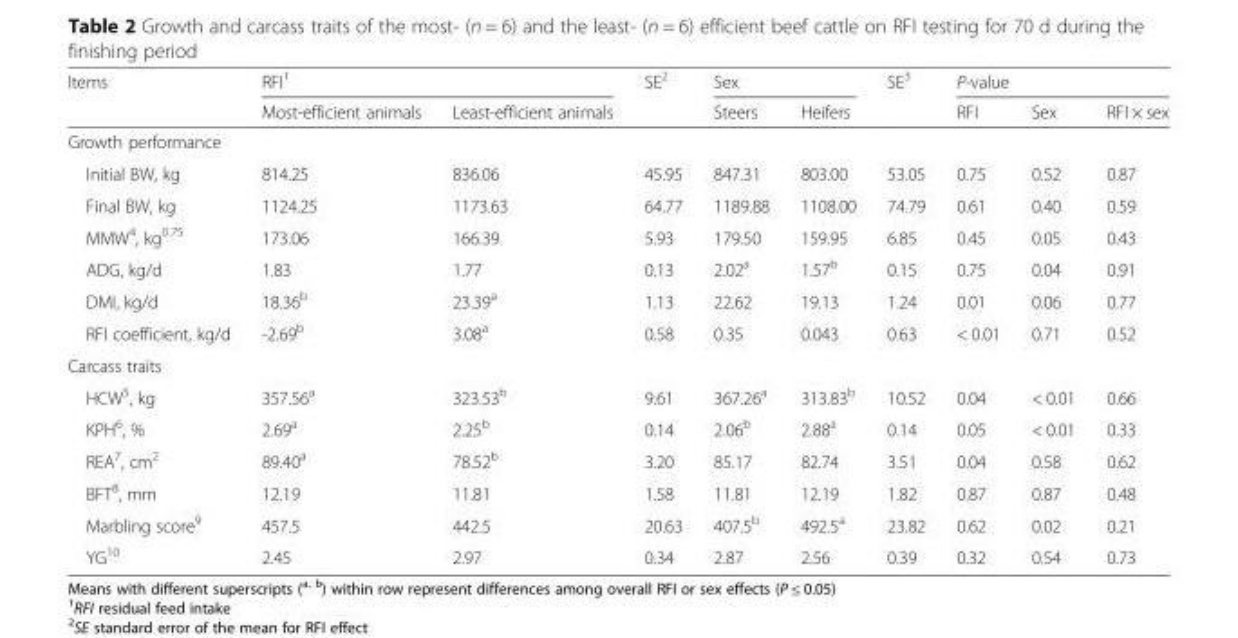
<table><thead><tr><td rowspan="2">Items</td><td colspan="2">RFI<sup>1</sup></td><td rowspan="2">SE<sup>2</sup></td><td colspan="2">Sex</td><td rowspan="2">SE<sup>3</sup></td><td colspan="3">P-value</td></tr><tr><td>Most-efficient animals</td><td>Least-efficient animals</td><td>Steers</td><td>Heifers</td><td>RFI</td><td>Sex</td><td>RFI × sex</td></tr></thead><tbody><tr><td colspan="10">Growth performance</td></tr><tr><td>Initial BW, kg</td><td>814.25</td><td>836.06</td><td>45.95</td><td>847.31</td><td>803.00</td><td>53.05</td><td>0.75</td><td>0.52</td><td>0.87</td></tr><tr><td>Final BW, kg</td><td>1124.25</td><td>1173.63</td><td>64.77</td><td>1189.88</td><td>1108.00</td><td>74.79</td><td>0.61</td><td>0.40</td><td>0.59</td></tr><tr><td>MMW<sup>4</sup>, kg<sup>0.75</sup></td><td>173.06</td><td>166.39</td><td>5.93</td><td>179.50</td><td>159.95</td><td>6.85</td><td>0.45</td><td>0.05</td><td>0.43</td></tr><tr><td>ADG, kg/d</td><td>1.83</td><td>1.77</td><td>0.13</td><td>2.02<sup>a</sup></td><td>1.57<sup>b</sup></td><td>0.15</td><td>0.75</td><td>0.04</td><td>0.91</td></tr><tr><td>DMI, kg/d</td><td>18.36<sup>b</sup></td><td>23.39<sup>a</sup></td><td>1.13</td><td>22.62</td><td>19.13</td><td>1.24</td><td>0.01</td><td>0.06</td><td>0.77</td></tr><tr><td>RFI coefficient, kg/d</td><td>-2.69<sup>b</sup></td><td>3.08<sup>a</sup></td><td>0.58</td><td>0.35</td><td>0.043</td><td>0.63</td><td>&lt; 0.01</td><td>0.71</td><td>0.52</td></tr><tr><td colspan="10">Carcass traits</td></tr><tr><td>HCW<sup>5</sup>, kg</td><td>357.56<sup>a</sup></td><td>323.53<sup>b</sup></td><td>9.61</td><td>367.26<sup>a</sup></td><td>313.83<sup>b</sup></td><td>10.52</td><td>0.04</td><td>&lt; 0.01</td><td>0.66</td></tr><tr><td>KPH<sup>6</sup>, %</td><td>2.69<sup>a</sup></td><td>2.25<sup>b</sup></td><td>0.14</td><td>2.06<sup>b</sup></td><td>2.88<sup>a</sup></td><td>0.14</td><td>0.05</td><td>&lt; 0.01</td><td>0.33</td></tr><tr><td>REA<sup>7</sup>, cm<sup>2</sup></td><td>89.40<sup>a</sup></td><td>78.52<sup>b</sup></td><td>3.20</td><td>85.17</td><td>82.74</td><td>3.51</td><td>0.04</td><td>0.58</td><td>0.62</td></tr><tr><td>BFT<sup>8</sup>, mm</td><td>12.19</td><td>11.81</td><td>1.58</td><td>11.81</td><td>12.19</td><td>1.82</td><td>0.87</td><td>0.87</td><td>0.48</td></tr><tr><td>Marbling score<sup>9</sup></td><td>457.5</td><td>442.5</td><td>20.63</td><td>407.5<sup>b</sup></td><td>492.5<sup>a</sup></td><td>23.82</td><td>0.62</td><td>0.02</td><td>0.21</td></tr><tr><td>YG<sup>10</sup></td><td>2.45</td><td>2.97</td><td>0.34</td><td>2.87</td><td>2.56</td><td>0.39</td><td>0.32</td><td>0.54</td><td>0.73</td></tr></tbody></table>